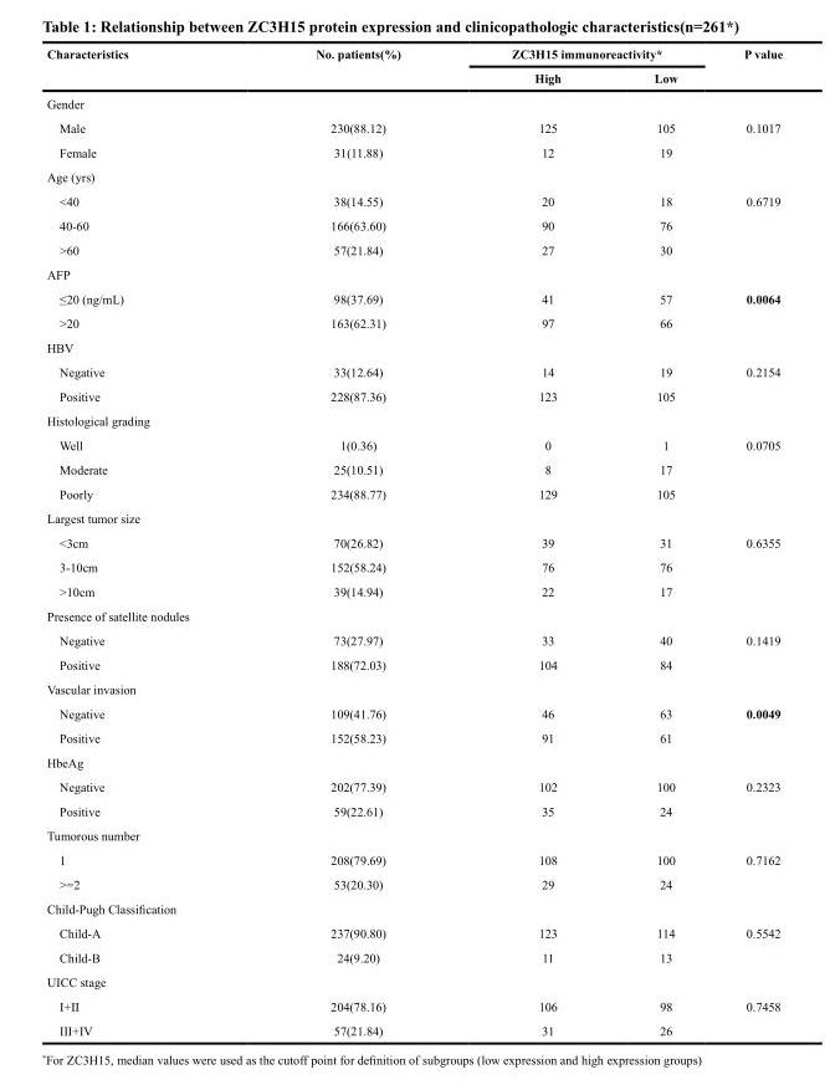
<table><thead><tr><td rowspan="2">Characteristics</td><td rowspan="2">No. patients(%)</td><td colspan="2">ZC3H15 immunoreactivity*</td><td rowspan="2">P value</td></tr><tr><td>High</td><td>Low</td></tr></thead><tbody><tr><td colspan="5">Gender</td></tr><tr><td>Male</td><td>230(88.12)</td><td>125</td><td>105</td><td>0.1017</td></tr><tr><td>Female</td><td>31(11.88)</td><td>12</td><td>19</td><td></td></tr><tr><td colspan="5">Age (yrs)</td></tr><tr><td>&lt;40</td><td>38(14.55)</td><td>20</td><td>18</td><td>0.6719</td></tr><tr><td>40-60</td><td>166(63.60)</td><td>90</td><td>76</td><td></td></tr><tr><td>&gt;60</td><td>57(21.84)</td><td>27</td><td>30</td><td></td></tr><tr><td colspan="5">AFP</td></tr><tr><td>≤20 (ng/mL)</td><td>98(37.69)</td><td>41</td><td>57</td><td>0.0064</td></tr><tr><td>&gt;20</td><td>163(62.31)</td><td>97</td><td>66</td><td></td></tr><tr><td colspan="5">HBV</td></tr><tr><td>Negative</td><td>33(12.64)</td><td>14</td><td>19</td><td>0.2154</td></tr><tr><td>Positive</td><td>228(87.36)</td><td>123</td><td>105</td><td></td></tr><tr><td colspan="5">Histological grading</td></tr><tr><td>Well</td><td>1(0.36)</td><td>0</td><td>1</td><td>0.0705</td></tr><tr><td>Moderate</td><td>25(10.51)</td><td>8</td><td>17</td><td></td></tr><tr><td>Poorly</td><td>234(88.77)</td><td>129</td><td>105</td><td></td></tr><tr><td colspan="5">Largest tumor size</td></tr><tr><td>&lt;3cm</td><td>70(26.82)</td><td>39</td><td>31</td><td>0.6355</td></tr><tr><td>3-10cm</td><td>152(58.24)</td><td>76</td><td>76</td><td></td></tr><tr><td>&gt;10cm</td><td>39(14.94)</td><td>22</td><td>17</td><td></td></tr><tr><td colspan="5">Presence of satellite nodules</td></tr><tr><td>Negative</td><td>73(27.97)</td><td>33</td><td>40</td><td>0.1419</td></tr><tr><td>Positive</td><td>188(72.03)</td><td>104</td><td>84</td><td></td></tr><tr><td colspan="5">Vascular invasion</td></tr><tr><td>Negative</td><td>109(41.76)</td><td>46</td><td>63</td><td>0.0049</td></tr><tr><td>Positive</td><td>152(58.23)</td><td>91</td><td>61</td><td></td></tr><tr><td colspan="5">HbeAg</td></tr><tr><td>Negative</td><td>202(77.39)</td><td>102</td><td>100</td><td>0.2323</td></tr><tr><td>Positive</td><td>59(22.61)</td><td>35</td><td>24</td><td></td></tr><tr><td colspan="5">Tumorous number</td></tr><tr><td>1</td><td>208(79.69)</td><td>108</td><td>100</td><td>0.7162</td></tr><tr><td>&gt;=2</td><td>53(20.30)</td><td>29</td><td>24</td><td></td></tr><tr><td colspan="5">Child-Pugh Classification</td></tr><tr><td>Child-A</td><td>237(90.80)</td><td>123</td><td>114</td><td>0.5542</td></tr><tr><td>Child-B</td><td>24(9.20)</td><td>11</td><td>13</td><td></td></tr><tr><td colspan="5">UICC stage</td></tr><tr><td>I+II</td><td>204(78.16)</td><td>106</td><td>98</td><td>0.7458</td></tr><tr><td>III+IV</td><td>57(21.84)</td><td>31</td><td>26</td><td></td></tr></tbody></table>